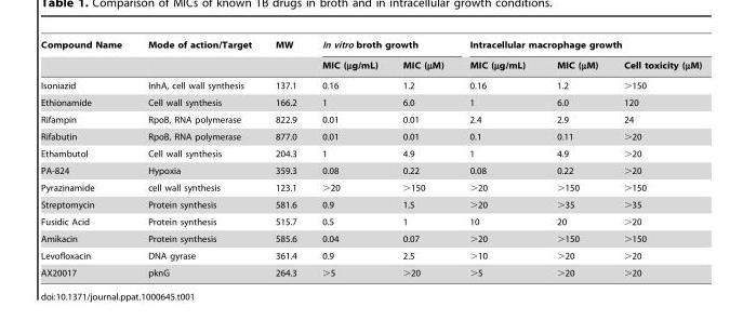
<table><thead><tr><td rowspan="2">Compound Name</td><td rowspan="2">Mode of action/Target</td><td rowspan="2">MW</td><td colspan="2">In vitro broth growth</td><td colspan="3">Intracellular macrophage growth</td></tr><tr><td>MIC (µg/mL)</td><td>MIC (µM)</td><td>MIC (µg/mL)</td><td>MIC (µM)</td><td>Cell toxicity (µM)</td></tr></thead><tbody><tr><td>Isoniazid</td><td>InhA, cell wall synthesis</td><td>137.1</td><td>0.16</td><td>1.2</td><td>0.16</td><td>1.2</td><td>&gt;150</td></tr><tr><td>Ethionamide</td><td>Cell wall synthesis</td><td>166.2</td><td>1</td><td>6.0</td><td>1</td><td>6.0</td><td>120</td></tr><tr><td>Rifampin</td><td>RpoB, RNA polymerase</td><td>822.9</td><td>0.01</td><td>0.01</td><td>2.4</td><td>2.9</td><td>24</td></tr><tr><td>Rifabutin</td><td>RpoB, RNA polymerase</td><td>877.0</td><td>0.01</td><td>0.01</td><td>0.1</td><td>0.11</td><td>&gt;20</td></tr><tr><td>Ethambutol</td><td>Cell wall synthesis</td><td>204.3</td><td>1</td><td>4.9</td><td>1</td><td>4.9</td><td>&gt;20</td></tr><tr><td>PA-824</td><td>Hypoxia</td><td>359.3</td><td>0.08</td><td>0.22</td><td>0.08</td><td>0.22</td><td>&gt;20</td></tr><tr><td>Pyrazinamide</td><td>cell wall synthesis</td><td>123.1</td><td>&gt;20</td><td>&gt;150</td><td>&gt;20</td><td>&gt;150</td><td>&gt;150</td></tr><tr><td>Streptomycin</td><td>Protein synthesis</td><td>581.6</td><td>0.9</td><td>1.5</td><td>&gt;20</td><td>&gt;35</td><td>&gt;35</td></tr><tr><td>Fusidic Acid</td><td>Protein synthesis</td><td>515.7</td><td>0.5</td><td>1</td><td>10</td><td>20</td><td>&gt;20</td></tr><tr><td>Amikacin</td><td>Protein synthesis</td><td>585.6</td><td>0.04</td><td>0.07</td><td>&gt;20</td><td>&gt;150</td><td>&gt;150</td></tr><tr><td>Levofloxacin</td><td>DNA gyrase</td><td>361.4</td><td>0.9</td><td>2.5</td><td>&gt;10</td><td>&gt;20</td><td>&gt;20</td></tr><tr><td>AX20017</td><td>pknG</td><td>264.3</td><td>&gt;5</td><td>&gt;20</td><td>&gt;5</td><td>&gt;20</td><td>&gt;20</td></tr></tbody></table>